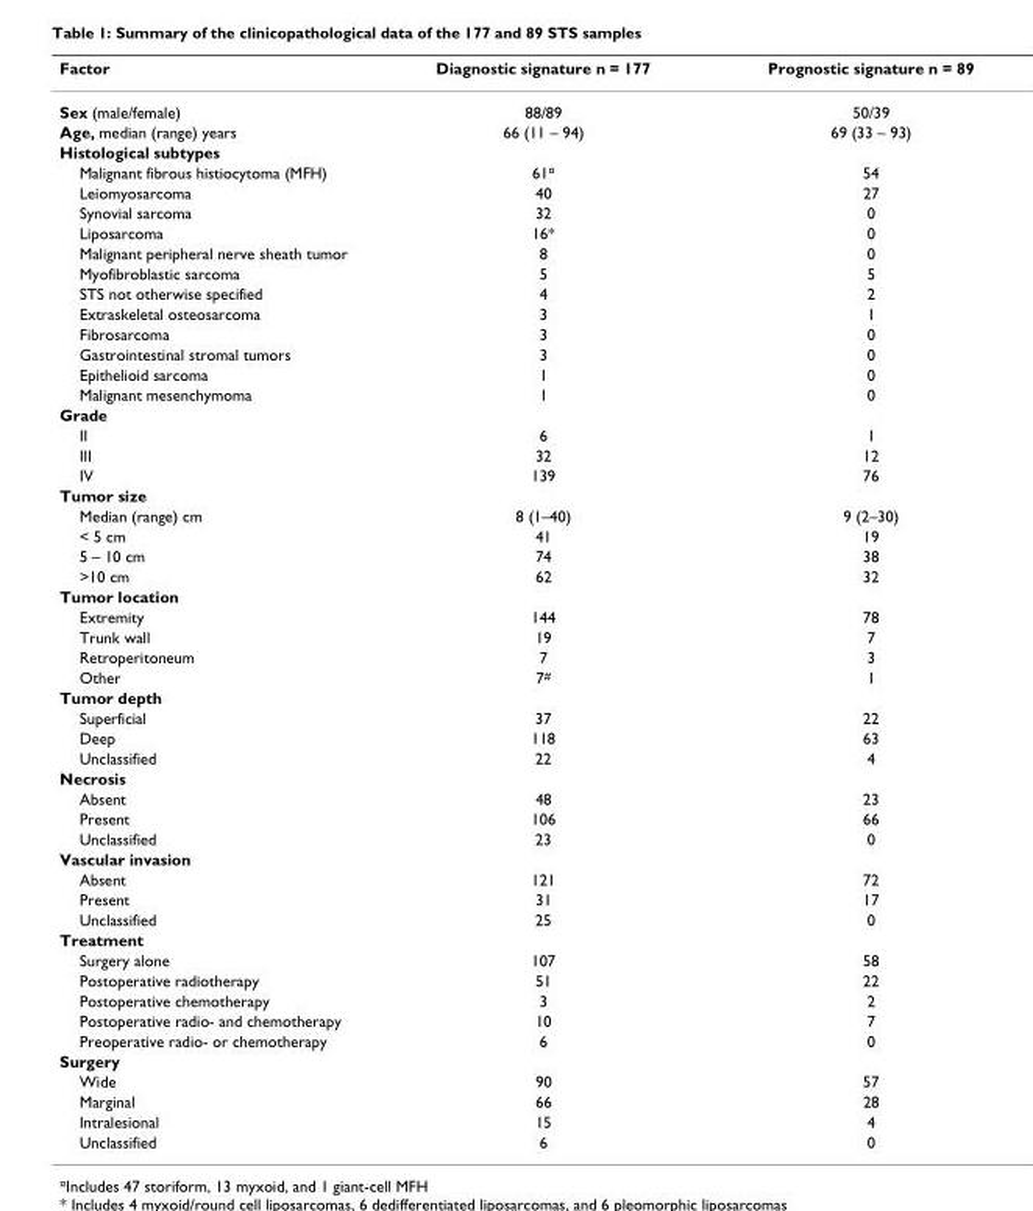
<table><thead><tr><td>Factor</td><td>Diagnostic signature n = 177</td><td>Prognostic signature n = 89</td></tr></thead><tbody><tr><td>Sex (male/female)</td><td>88/89</td><td>50/39</td></tr><tr><td>Age, median (range) years</td><td>66 (11 – 94)</td><td>69 (33 – 93)</td></tr><tr><td colspan="3">Histological subtypes</td></tr><tr><td>Malignant fibrous histiocytoma (MFH)</td><td>61<sup>¤</sup></td><td>54</td></tr><tr><td>Leiomyosarcoma</td><td>40</td><td>27</td></tr><tr><td>Synovial sarcoma</td><td>32</td><td>0</td></tr><tr><td>Liposarcoma</td><td>16*</td><td>0</td></tr><tr><td>Malignant peripheral nerve sheath tumor</td><td>8</td><td>0</td></tr><tr><td>Myofibroblastic sarcoma</td><td>5</td><td>5</td></tr><tr><td>STS not otherwise specified</td><td>4</td><td>2</td></tr><tr><td>Extraskeletal osteosarcoma</td><td>3</td><td>1</td></tr><tr><td>Fibrosarcoma</td><td>3</td><td>0</td></tr><tr><td>Gastrointestinal stromal tumors</td><td>3</td><td>0</td></tr><tr><td>Epithelioid sarcoma</td><td>1</td><td>0</td></tr><tr><td>Malignant mesenchymoma</td><td>1</td><td>0</td></tr><tr><td colspan="3">Grade</td></tr><tr><td>II</td><td>6</td><td>1</td></tr><tr><td>III</td><td>32</td><td>12</td></tr><tr><td>IV</td><td>139</td><td>76</td></tr><tr><td colspan="3">Tumor size</td></tr><tr><td>Median (range) cm</td><td>8 (1–40)</td><td>9 (2–30)</td></tr><tr><td>&lt; 5 cm</td><td>41</td><td>19</td></tr><tr><td>5 – 10 cm</td><td>74</td><td>38</td></tr><tr><td>&gt;10 cm</td><td>62</td><td>32</td></tr><tr><td colspan="3">Tumor location</td></tr><tr><td>Extremity</td><td>144</td><td>78</td></tr><tr><td>Trunk wall</td><td>19</td><td>7</td></tr><tr><td>Retroperitoneum</td><td>7</td><td>3</td></tr><tr><td>Other</td><td>7<sup>#</sup></td><td>1</td></tr><tr><td colspan="3">Tumor depth</td></tr><tr><td>Superficial</td><td>37</td><td>22</td></tr><tr><td>Deep</td><td>118</td><td>63</td></tr><tr><td>Unclassified</td><td>22</td><td>4</td></tr><tr><td colspan="3">Necrosis</td></tr><tr><td>Absent</td><td>48</td><td>23</td></tr><tr><td>Present</td><td>106</td><td>66</td></tr><tr><td>Unclassified</td><td>23</td><td>0</td></tr><tr><td colspan="3">Vascular invasion</td></tr><tr><td>Absent</td><td>121</td><td>72</td></tr><tr><td>Present</td><td>31</td><td>17</td></tr><tr><td>Unclassified</td><td>25</td><td>0</td></tr><tr><td colspan="3">Treatment</td></tr><tr><td>Surgery alone</td><td>107</td><td>58</td></tr><tr><td>Postoperative radiotherapy</td><td>51</td><td>22</td></tr><tr><td>Postoperative chemotherapy</td><td>3</td><td>2</td></tr><tr><td>Postoperative radio- and chemotherapy</td><td>10</td><td>7</td></tr><tr><td>Preoperative radio- or chemotherapy</td><td>6</td><td>0</td></tr><tr><td colspan="3">Surgery</td></tr><tr><td>Wide</td><td>90</td><td>57</td></tr><tr><td>Marginal</td><td>66</td><td>28</td></tr><tr><td>Intralesional</td><td>15</td><td>4</td></tr><tr><td>Unclassified</td><td>6</td><td>0</td></tr></tbody></table>